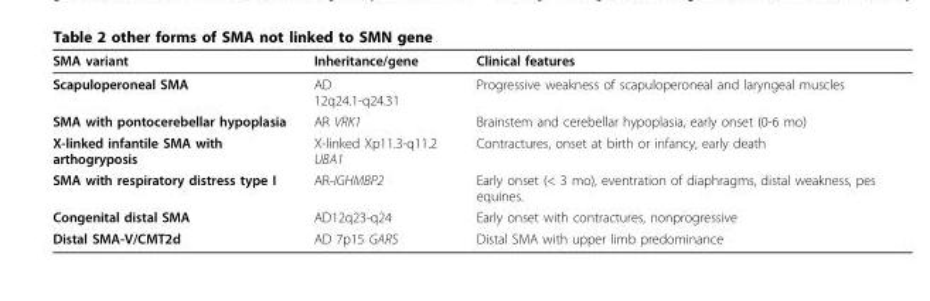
<table><thead><tr><td>SMA variant</td><td>Inheritance/gene</td><td>Clinical features</td></tr></thead><tbody><tr><td>Scapuloperoneal SMA</td><td>AD 12q24.1-q24.31</td><td>Progressive weakness of scapuloperoneal and laryngeal muscles</td></tr><tr><td>SMA with pontocerebellar hypoplasia</td><td>AR VRK1</td><td>Brainstem and cerebellar hypoplasia, early onset (0-6 mo)</td></tr><tr><td>X-linked infantile SMA with arthogryposis</td><td>X-linked Xp11.3-q11.2 UBA1</td><td>Contractures, onset at birth or infancy, early death</td></tr><tr><td>SMA with respiratory distress type I</td><td>AR-IGHMBP2</td><td>Early onset (&lt; 3 mo), eventration of diaphragms, distal weakness, pes equines.</td></tr><tr><td>Congenital distal SMA</td><td>AD12q23-q24</td><td>Early onset with contractures, nonprogressive</td></tr><tr><td>Distal SMA-V/CMT2d</td><td>AD 7p15 GARS</td><td>Distal SMA with upper limb predominance</td></tr></tbody></table>